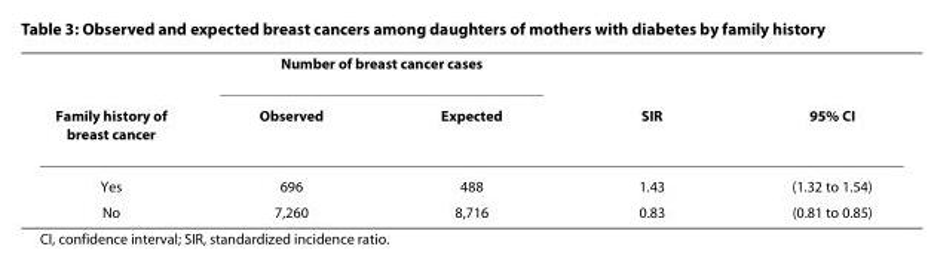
<table><thead><tr><td rowspan="2">Family history of breast cancer</td><td colspan="2">Number of breast cancer cases</td><td rowspan="2">SIR</td><td rowspan="2">95% CI</td></tr><tr><td>Observed</td><td>Expected</td></tr></thead><tbody><tr><td>Yes</td><td>696</td><td>488</td><td>1.43</td><td>(1.32 to 1.54)</td></tr><tr><td>No</td><td>7,260</td><td>8,716</td><td>0.83</td><td>(0.81 to 0.85)</td></tr></tbody></table>